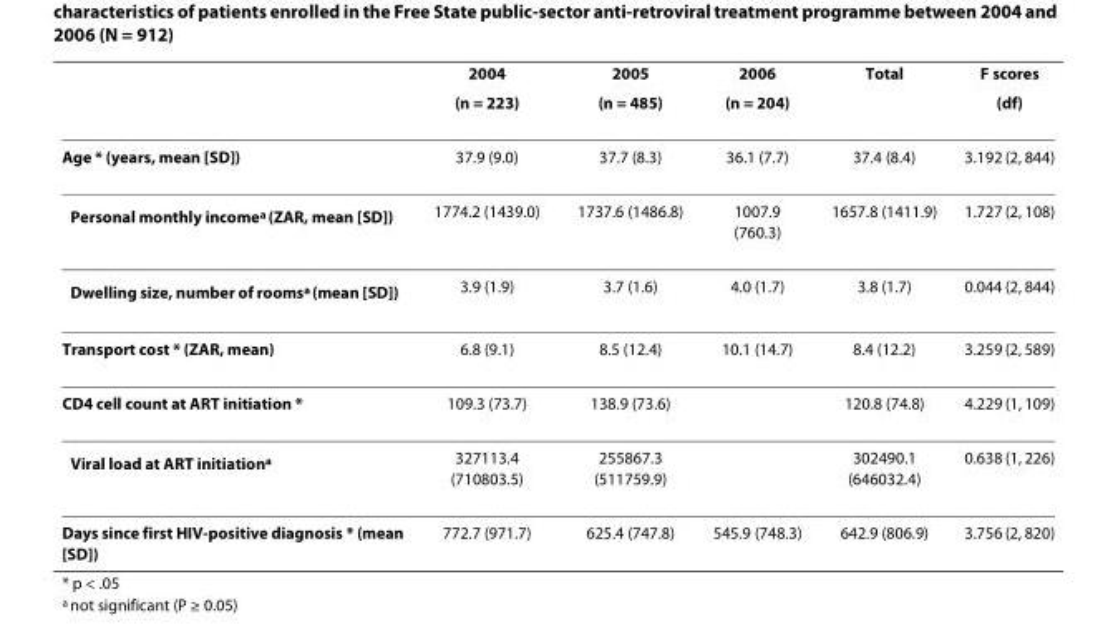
<table><thead><tr><td rowspan="2"></td><td rowspan="2">2004 (n = 223)</td><td rowspan="2">2005 (n = 485)</td><td rowspan="2">2006 (n = 204)</td><td rowspan="2">Total</td><td rowspan="2">F scores (df)</td></tr><tr></tr></thead><tbody><tr><td>Age * (years, mean [SD])</td><td>37.9 (9.0)</td><td>37.7 (8.3)</td><td>36.1 (7.7)</td><td>37.4 (8.4)</td><td>3.192 (2, 844)</td></tr><tr><td>Personal monthly income<sup>a</sup> (ZAR, mean [SD])</td><td>1774.2 (1439.0)</td><td>1737.6 (1486.8)</td><td>1007.9 (760.3)</td><td>1657.8 (1411.9)</td><td>1.727 (2, 108)</td></tr><tr><td>Dwelling size, number of rooms<sup>a</sup> (mean [SD])</td><td>3.9 (1.9)</td><td>3.7 (1.6)</td><td>4.0 (1.7)</td><td>3.8 (1.7)</td><td>0.044 (2, 844)</td></tr><tr><td>Transport cost * (ZAR, mean)</td><td>6.8 (9.1)</td><td>8.5 (12.4)</td><td>10.1 (14.7)</td><td>8.4 (12.2)</td><td>3.259 (2, 589)</td></tr><tr><td>CD4 cell count at ART initiation *</td><td>109.3 (73.7)</td><td>138.9 (73.6)</td><td></td><td>120.8 (74.8)</td><td>4.229 (1, 109)</td></tr><tr><td>Viral load at ART initiation<sup>a</sup></td><td>327113.4 (710803.5)</td><td>255867.3 (511759.9)</td><td></td><td>302490.1 (646032.4)</td><td>0.638 (1, 226)</td></tr><tr><td>Days since first HIV-positive diagnosis * (mean [SD])</td><td>772.7 (971.7)</td><td>625.4 (747.8)</td><td>545.9 (748.3)</td><td>642.9 (806.9)</td><td>3.756 (2, 820)</td></tr></tbody></table>